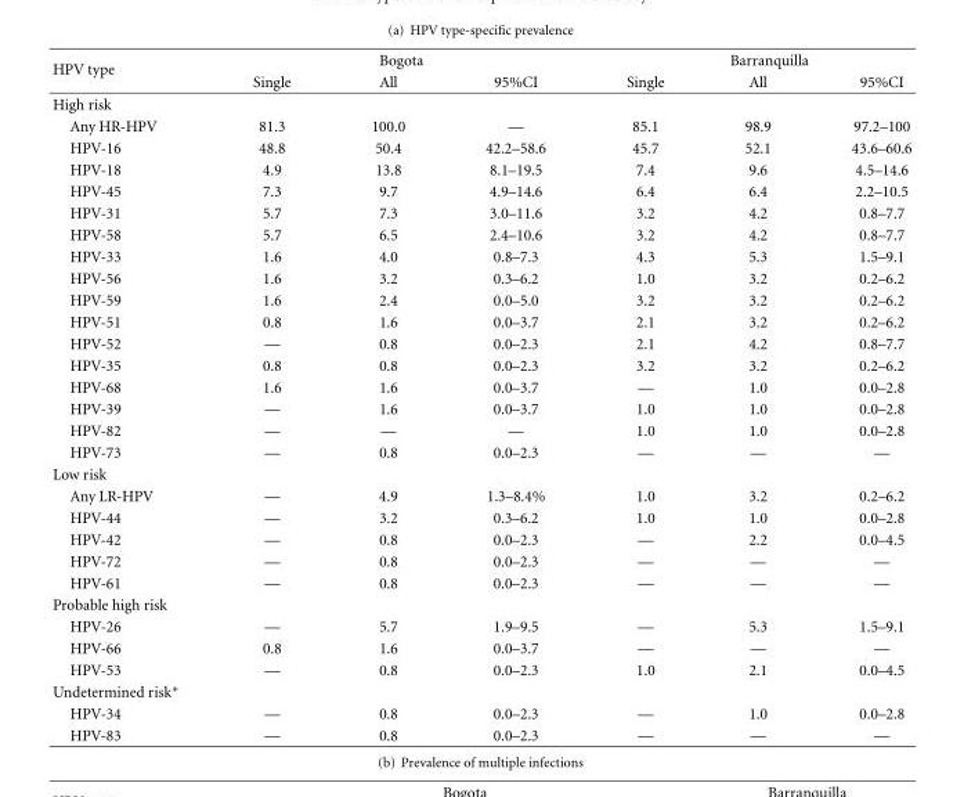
<table><thead><tr><td rowspan="2">HPV type</td><td colspan="3">Bogota</td><td colspan="3">Barranquilla</td></tr><tr><td>Single</td><td>All</td><td>95%CI</td><td>Single</td><td>All</td><td>95%CI</td></tr></thead><tbody><tr><td colspan="7">High risk</td></tr><tr><td>Any HR-HPV</td><td>81.3</td><td>100.0</td><td>—</td><td>85.1</td><td>98.9</td><td>97.2–100</td></tr><tr><td>HPV-16</td><td>48.8</td><td>50.4</td><td>42.2–58.6</td><td>45.7</td><td>52.1</td><td>43.6–60.6</td></tr><tr><td>HPV-18</td><td>4.9</td><td>13.8</td><td>8.1–19.5</td><td>7.4</td><td>9.6</td><td>4.5–14.6</td></tr><tr><td>HPV-45</td><td>7.3</td><td>9.7</td><td>4.9–14.6</td><td>6.4</td><td>6.4</td><td>2.2–10.5</td></tr><tr><td>HPV-31</td><td>5.7</td><td>7.3</td><td>3.0–11.6</td><td>3.2</td><td>4.2</td><td>0.8–7.7</td></tr><tr><td>HPV-58</td><td>5.7</td><td>6.5</td><td>2.4–10.6</td><td>3.2</td><td>4.2</td><td>0.8–7.7</td></tr><tr><td>HPV-33</td><td>1.6</td><td>4.0</td><td>0.8–7.3</td><td>4.3</td><td>5.3</td><td>1.5–9.1</td></tr><tr><td>HPV-56</td><td>1.6</td><td>3.2</td><td>0.3–6.2</td><td>1.0</td><td>3.2</td><td>0.2–6.2</td></tr><tr><td>HPV-59</td><td>1.6</td><td>2.4</td><td>0.0–5.0</td><td>3.2</td><td>3.2</td><td>0.2–6.2</td></tr><tr><td>HPV-51</td><td>0.8</td><td>1.6</td><td>0.0–3.7</td><td>2.1</td><td>3.2</td><td>0.2–6.2</td></tr><tr><td>HPV-52</td><td>—</td><td>0.8</td><td>0.0–2.3</td><td>2.1</td><td>4.2</td><td>0.8–7.7</td></tr><tr><td>HPV-35</td><td>0.8</td><td>0.8</td><td>0.0–2.3</td><td>3.2</td><td>3.2</td><td>0.2–6.2</td></tr><tr><td>HPV-68</td><td>1.6</td><td>1.6</td><td>0.0–3.7</td><td>—</td><td>1.0</td><td>0.0–2.8</td></tr><tr><td>HPV-39</td><td>—</td><td>1.6</td><td>0.0–3.7</td><td>1.0</td><td>1.0</td><td>0.0–2.8</td></tr><tr><td>HPV-82</td><td>—</td><td>—</td><td>—</td><td>1.0</td><td>1.0</td><td>0.0–2.8</td></tr><tr><td>HPV-73</td><td>—</td><td>0.8</td><td>0.0–2.3</td><td>—</td><td>—</td><td>—</td></tr><tr><td colspan="7">Low risk</td></tr><tr><td>Any LR-HPV</td><td>—</td><td>4.9</td><td>1.3–8.4%</td><td>1.0</td><td>3.2</td><td>0.2–6.2</td></tr><tr><td>HPV-44</td><td>—</td><td>3.2</td><td>0.3–6.2</td><td>1.0</td><td>1.0</td><td>0.0–2.8</td></tr><tr><td>HPV-42</td><td>—</td><td>0.8</td><td>0.0–2.3</td><td>—</td><td>2.2</td><td>0.0–4.5</td></tr><tr><td>HPV-72</td><td>—</td><td>0.8</td><td>0.0–2.3</td><td>—</td><td>—</td><td>—</td></tr><tr><td>HPV-61</td><td>—</td><td>0.8</td><td>0.0–2.3</td><td>—</td><td>—</td><td>—</td></tr><tr><td colspan="7">Probable high risk</td></tr><tr><td>HPV-26</td><td>—</td><td>5.7</td><td>1.9–9.5</td><td>—</td><td>5.3</td><td>1.5–9.1</td></tr><tr><td>HPV-66</td><td>0.8</td><td>1.6</td><td>0.0–3.7</td><td>—</td><td>—</td><td>—</td></tr><tr><td>HPV-53</td><td>—</td><td>0.8</td><td>0.0–2.3</td><td>1.0</td><td>2.1</td><td>0.0–4.5</td></tr><tr><td colspan="7">Undetermined risk∗</td></tr><tr><td>HPV-34</td><td>—</td><td>0.8</td><td>0.0–2.3</td><td>—</td><td>1.0</td><td>0.0–2.8</td></tr><tr><td>HPV-83</td><td>—</td><td>0.8</td><td>0.0–2.3</td><td>—</td><td>—</td><td>—</td></tr></tbody></table>